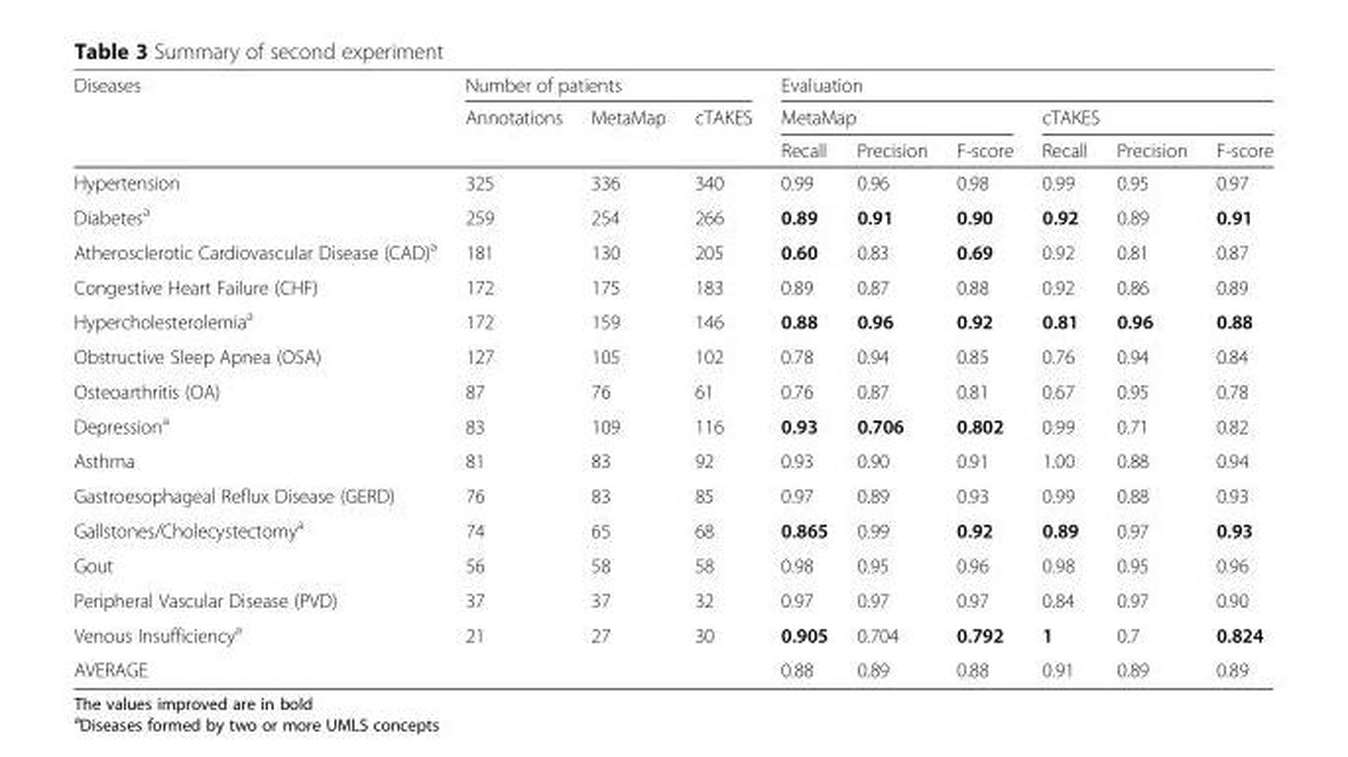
<table><thead><tr><td rowspan="3">Diseases</td><td colspan="3">Number of patients</td><td colspan="6">Evaluation</td></tr><tr><td rowspan="2">Annotations</td><td rowspan="2">MetaMap</td><td rowspan="2">cTAKES</td><td colspan="3">MetaMap</td><td colspan="3">cTAKES</td></tr><tr><td>Recall</td><td>Precision</td><td>F-score</td><td>Recall</td><td>Precision</td><td>F-score</td></tr></thead><tbody><tr><td>Hypertension</td><td>325</td><td>336</td><td>340</td><td>0.99</td><td>0.96</td><td>0.98</td><td>0.99</td><td>0.95</td><td>0.97</td></tr><tr><td>Diabetes<sup>a</sup></td><td>259</td><td>254</td><td>266</td><td>0.89</td><td>0.91</td><td>0.90</td><td>0.92</td><td>0.89</td><td>0.91</td></tr><tr><td>Atherosclerotic Cardiovascular Disease (CAD)<sup>a</sup></td><td>181</td><td>130</td><td>205</td><td>0.60</td><td>0.83</td><td>0.69</td><td>0.92</td><td>0.81</td><td>0.87</td></tr><tr><td>Congestive Heart Failure (CHF)</td><td>172</td><td>175</td><td>183</td><td>0.89</td><td>0.87</td><td>0.88</td><td>0.92</td><td>0.86</td><td>0.89</td></tr><tr><td>Hypercholesterolemia<sup>a</sup></td><td>172</td><td>159</td><td>146</td><td>0.88</td><td>0.96</td><td>0.92</td><td>0.81</td><td>0.96</td><td>0.88</td></tr><tr><td>Obstructive Sleep Apnea (OSA)</td><td>127</td><td>105</td><td>102</td><td>0.78</td><td>0.94</td><td>0.85</td><td>0.76</td><td>0.94</td><td>0.84</td></tr><tr><td>Osteoarthritis (OA)</td><td>87</td><td>76</td><td>61</td><td>0.76</td><td>0.87</td><td>0.81</td><td>0.67</td><td>0.95</td><td>0.78</td></tr><tr><td>Depression<sup>a</sup></td><td>83</td><td>109</td><td>116</td><td>0.93</td><td>0.706</td><td>0.802</td><td>0.99</td><td>0.71</td><td>0.82</td></tr><tr><td>Asthma</td><td>81</td><td>83</td><td>92</td><td>0.93</td><td>0.90</td><td>0.91</td><td>1.00</td><td>0.88</td><td>0.94</td></tr><tr><td>Gastroesophageal Reflux Disease (GERD)</td><td>76</td><td>83</td><td>85</td><td>0.97</td><td>0.89</td><td>0.93</td><td>0.99</td><td>0.88</td><td>0.93</td></tr><tr><td>Gallstones/Cholecystectomy<sup>a</sup></td><td>74</td><td>65</td><td>68</td><td>0.865</td><td>0.99</td><td>0.92</td><td>0.89</td><td>0.97</td><td>0.93</td></tr><tr><td>Gout</td><td>56</td><td>58</td><td>58</td><td>0.98</td><td>0.95</td><td>0.96</td><td>0.98</td><td>0.95</td><td>0.96</td></tr><tr><td>Peripheral Vascular Disease (PVD)</td><td>37</td><td>37</td><td>32</td><td>0.97</td><td>0.97</td><td>0.97</td><td>0.84</td><td>0.97</td><td>0.90</td></tr><tr><td>Venous Insufficiency<sup>a</sup></td><td>21</td><td>27</td><td>30</td><td>0.905</td><td>0.704</td><td>0.792</td><td>1</td><td>0.7</td><td>0.824</td></tr><tr><td>AVERAGE</td><td></td><td></td><td></td><td>0.88</td><td>0.89</td><td>0.88</td><td>0.91</td><td>0.89</td><td>0.89</td></tr></tbody></table>